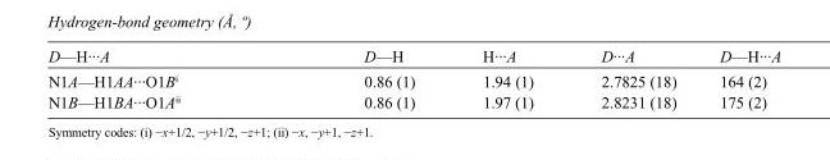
<table><tbody><tr><td>D—H···A</td><td>D—H</td><td>H···A</td><td>D···A</td><td>D—H···A</td></tr><tr><td>N1A—H1AA···O1B<sup>i</sup></td><td>0.86 (1)</td><td>1.94 (1)</td><td>2.7825 (18)</td><td>164 (2)</td></tr><tr><td>N1B—H1BA···O1A<sup>ii</sup></td><td>0.86 (1)</td><td>1.97 (1)</td><td>2.8231 (18)</td><td>175 (2)</td></tr></tbody></table>